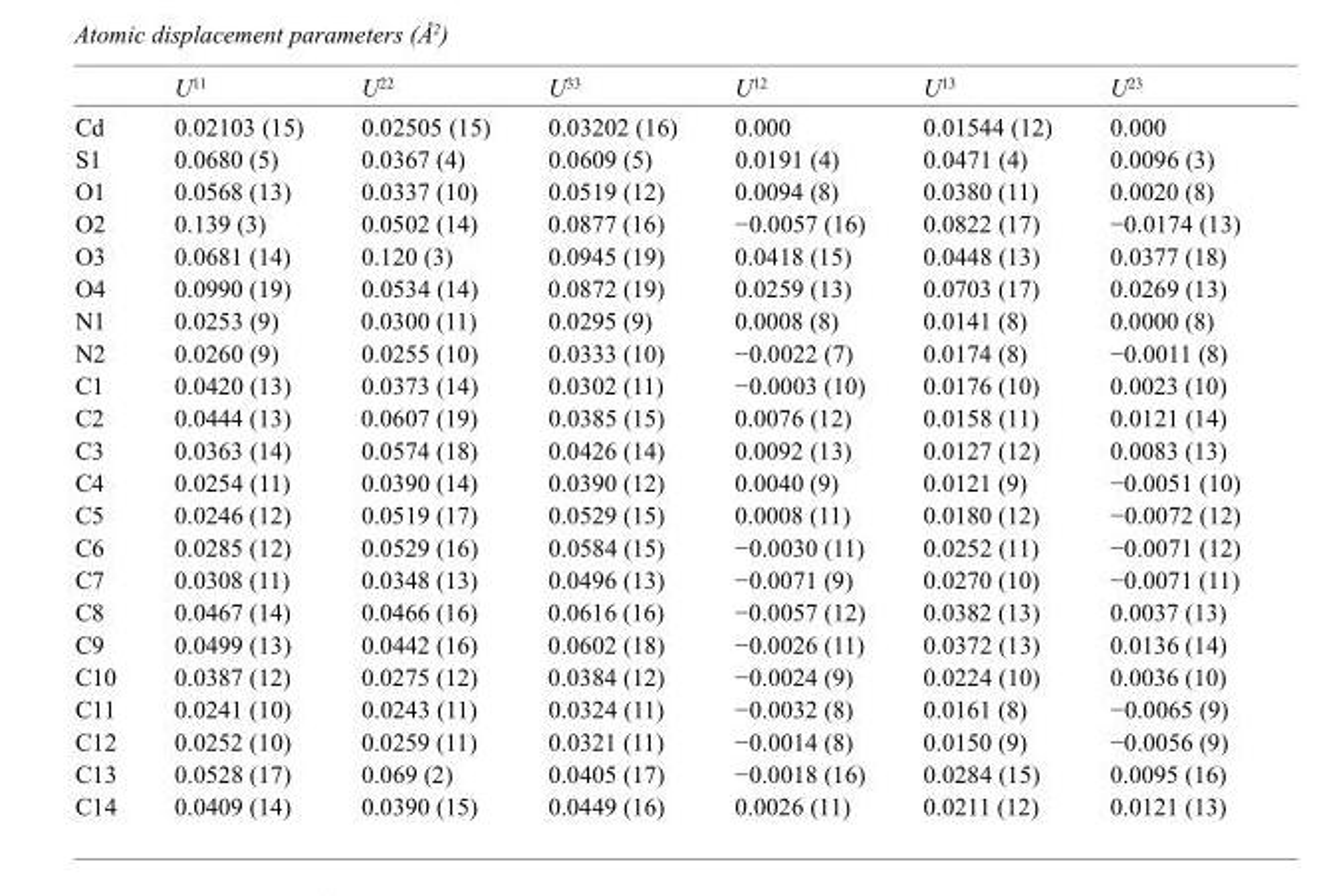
<table><thead><tr><td></td><td>U<sup>11</sup></td><td>U<sup>22</sup></td><td>U<sup>33</sup></td><td>U<sup>12</sup></td><td>U<sup>13</sup></td><td>U<sup>23</sup></td></tr></thead><tbody><tr><td>Cd</td><td>0.02103 (15)</td><td>0.02505 (15)</td><td>0.03202 (16)</td><td>0.000</td><td>0.01544 (12)</td><td>0.000</td></tr><tr><td>S1</td><td>0.0680 (5)</td><td>0.0367 (4)</td><td>0.0609 (5)</td><td>0.0191 (4)</td><td>0.0471 (4)</td><td>0.0096 (3)</td></tr><tr><td>O1</td><td>0.0568 (13)</td><td>0.0337 (10)</td><td>0.0519 (12)</td><td>0.0094 (8)</td><td>0.0380 (11)</td><td>0.0020 (8)</td></tr><tr><td>O2</td><td>0.139 (3)</td><td>0.0502 (14)</td><td>0.0877 (16)</td><td>−0.0057 (16)</td><td>0.0822 (17)</td><td>−0.0174 (13)</td></tr><tr><td>O3</td><td>0.0681 (14)</td><td>0.120 (3)</td><td>0.0945 (19)</td><td>0.0418 (15)</td><td>0.0448 (13)</td><td>0.0377 (18)</td></tr><tr><td>O4</td><td>0.0990 (19)</td><td>0.0534 (14)</td><td>0.0872 (19)</td><td>0.0259 (13)</td><td>0.0703 (17)</td><td>0.0269 (13)</td></tr><tr><td>N1</td><td>0.0253 (9)</td><td>0.0300 (11)</td><td>0.0295 (9)</td><td>0.0008 (8)</td><td>0.0141 (8)</td><td>0.0000 (8)</td></tr><tr><td>N2</td><td>0.0260 (9)</td><td>0.0255 (10)</td><td>0.0333 (10)</td><td>−0.0022 (7)</td><td>0.0174 (8)</td><td>−0.0011 (8)</td></tr><tr><td>C1</td><td>0.0420 (13)</td><td>0.0373 (14)</td><td>0.0302 (11)</td><td>−0.0003 (10)</td><td>0.0176 (10)</td><td>0.0023 (10)</td></tr><tr><td>C2</td><td>0.0444 (13)</td><td>0.0607 (19)</td><td>0.0385 (15)</td><td>0.0076 (12)</td><td>0.0158 (11)</td><td>0.0121 (14)</td></tr><tr><td>C3</td><td>0.0363 (14)</td><td>0.0574 (18)</td><td>0.0426 (14)</td><td>0.0092 (13)</td><td>0.0127 (12)</td><td>0.0083 (13)</td></tr><tr><td>C4</td><td>0.0254 (11)</td><td>0.0390 (14)</td><td>0.0390 (12)</td><td>0.0040 (9)</td><td>0.0121 (9)</td><td>−0.0051 (10)</td></tr><tr><td>C5</td><td>0.0246 (12)</td><td>0.0519 (17)</td><td>0.0529 (15)</td><td>0.0008 (11)</td><td>0.0180 (12)</td><td>−0.0072 (12)</td></tr><tr><td>C6</td><td>0.0285 (12)</td><td>0.0529 (16)</td><td>0.0584 (15)</td><td>−0.0030 (11)</td><td>0.0252 (11)</td><td>−0.0071 (12)</td></tr><tr><td>C7</td><td>0.0308 (11)</td><td>0.0348 (13)</td><td>0.0496 (13)</td><td>−0.0071 (9)</td><td>0.0270 (10)</td><td>−0.0071 (11)</td></tr><tr><td>C8</td><td>0.0467 (14)</td><td>0.0466 (16)</td><td>0.0616 (16)</td><td>−0.0057 (12)</td><td>0.0382 (13)</td><td>0.0037 (13)</td></tr><tr><td>C9</td><td>0.0499 (13)</td><td>0.0442 (16)</td><td>0.0602 (18)</td><td>−0.0026 (11)</td><td>0.0372 (13)</td><td>0.0136 (14)</td></tr><tr><td>C10</td><td>0.0387 (12)</td><td>0.0275 (12)</td><td>0.0384 (12)</td><td>−0.0024 (9)</td><td>0.0224 (10)</td><td>0.0036 (10)</td></tr><tr><td>C11</td><td>0.0241 (10)</td><td>0.0243 (11)</td><td>0.0324 (11)</td><td>−0.0032 (8)</td><td>0.0161 (8)</td><td>−0.0065 (9)</td></tr><tr><td>C12</td><td>0.0252 (10)</td><td>0.0259 (11)</td><td>0.0321 (11)</td><td>−0.0014 (8)</td><td>0.0150 (9)</td><td>−0.0056 (9)</td></tr><tr><td>C13</td><td>0.0528 (17)</td><td>0.069 (2)</td><td>0.0405 (17)</td><td>−0.0018 (16)</td><td>0.0284 (15)</td><td>0.0095 (16)</td></tr><tr><td>C14</td><td>0.0409 (14)</td><td>0.0390 (15)</td><td>0.0449 (16)</td><td>0.0026 (11)</td><td>0.0211 (12)</td><td>0.0121 (13)</td></tr></tbody></table>